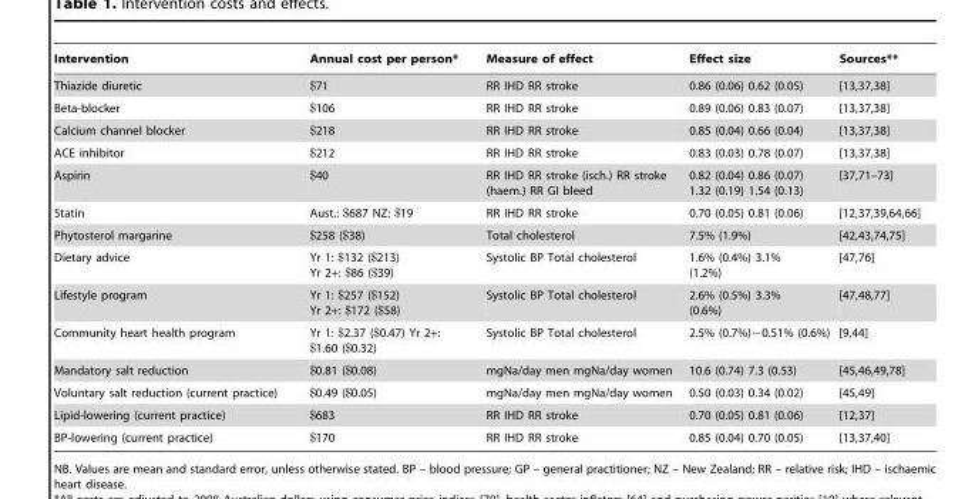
<table><thead><tr><td>Intervention</td><td>Annual cost per person*</td><td>Measure of effect</td><td>Effect size</td><td>Sources**</td></tr></thead><tbody><tr><td>Thiazide diuretic</td><td>$71</td><td>RR IHD RR stroke</td><td>0.86 (0.06) 0.62 (0.05)</td><td>[13,37,38]</td></tr><tr><td>Beta-blocker</td><td>$106</td><td>RR IHD RR stroke</td><td>0.89 (0.06) 0.83 (0.07)</td><td>[13,37,38]</td></tr><tr><td>Calcium channel blocker</td><td>$218</td><td>RR IHD RR stroke</td><td>0.85 (0.04) 0.66 (0.04)</td><td>[13,37,38]</td></tr><tr><td>ACE inhibitor</td><td>$212</td><td>RR IHD RR stroke</td><td>0.83 (0.03) 0.78 (0.07)</td><td>[13,37,38]</td></tr><tr><td>Aspirin</td><td>$40</td><td>RR IHD RR stroke (isch.) RR stroke (haem.) RR GI bleed</td><td>0.82 (0.04) 0.86 (0.07) 1.32 (0.19) 1.54 (0.13)</td><td>[37,71–73]</td></tr><tr><td>Statin</td><td>Aust.: $687 NZ: $19</td><td>RR IHD RR stroke</td><td>0.70 (0.05) 0.81 (0.06)</td><td>[12,37,39,64,66]</td></tr><tr><td>Phytosterol margarine</td><td>$258 ($38)</td><td>Total cholesterol</td><td>7.5% (1.9%)</td><td>[42,43,74,75]</td></tr><tr><td>Dietary advice</td><td>Yr 1: $132 ($213) Yr 2+: $86 ($39)</td><td>Systolic BP Total cholesterol</td><td>1.6% (0.4%) 3.1% (1.2%)</td><td>[47,76]</td></tr><tr><td>Lifestyle program</td><td>Yr 1: $257 ($152) Yr 2+: $172 ($58)</td><td>Systolic BP Total cholesterol</td><td>2.6% (0.5%) 3.3% (0.6%)</td><td>[47,48,77]</td></tr><tr><td>Community heart health program</td><td>Yr 1: $2.37 ($0.47) Yr 2+: $1.60 ($0.32)</td><td>Systolic BP Total cholesterol</td><td>2.5% (0.7%)−0.51% (0.6%)</td><td>[9,44]</td></tr><tr><td>Mandatory salt reduction</td><td>$0.81 ($0.08)</td><td>mgNa/day men mgNa/day women</td><td>10.6 (0.74) 7.3 (0.53)</td><td>[45,46,49,78]</td></tr><tr><td>Voluntary salt reduction (current practice)</td><td>$0.49 ($0.05)</td><td>mgNa/day men mgNa/day women</td><td>0.50 (0.03) 0.34 (0.02)</td><td>[45,49]</td></tr><tr><td>Lipid-lowering (current practice)</td><td>$683</td><td>RR IHD RR stroke</td><td>0.70 (0.05) 0.81 (0.06)</td><td>[12,37]</td></tr><tr><td>BP-lowering (current practice)</td><td>$170</td><td>RR IHD RR stroke</td><td>0.85 (0.04) 0.70 (0.05)</td><td>[13,37,40]</td></tr></tbody></table>